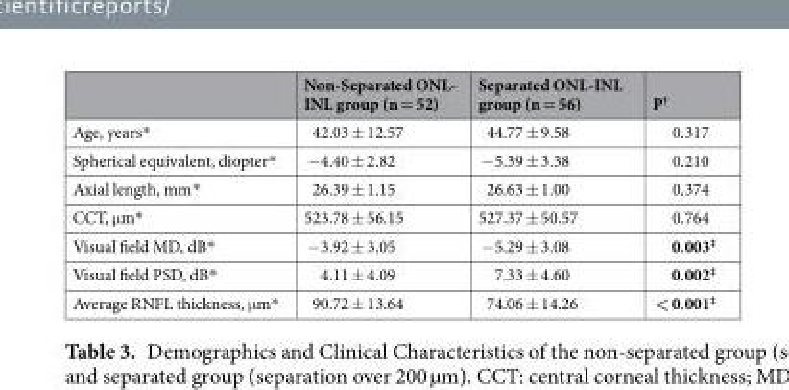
<table><thead><tr><td></td><td>Non-Separated ONL- INL group (n = 52)</td><td>Separated ONL-INL group (n = 56)</td><td>P<sup>†</sup></td></tr></thead><tbody><tr><td>Age, years*</td><td>42.03 ± 12.57</td><td>44.77 ± 9.58</td><td>0.317</td></tr><tr><td>Spherical equivalent, diopter*</td><td>−4.40 ± 2.82</td><td>−5.39 ± 3.38</td><td>0.210</td></tr><tr><td>Axial length, mm*</td><td>26.39 ± 1.15</td><td>26.63 ± 1.00</td><td>0.374</td></tr><tr><td>CCT, μm*</td><td>523.78 ± 56.15</td><td>527.37 ± 50.57</td><td>0.764</td></tr><tr><td>Visual field MD, dB*</td><td>−3.92 ± 3.05</td><td>−5.29 ± 3.08</td><td>0.003<sup>‡</sup></td></tr><tr><td>Visual field PSD, dB*</td><td>4.11 ± 4.09</td><td>7.33 ± 4.60</td><td>0.002<sup>‡</sup></td></tr><tr><td>Average RNFL thickness, μm*</td><td>90.72 ± 13.64</td><td>74.06 ± 14.26</td><td>&lt; 0.001<sup>‡</sup></td></tr></tbody></table>